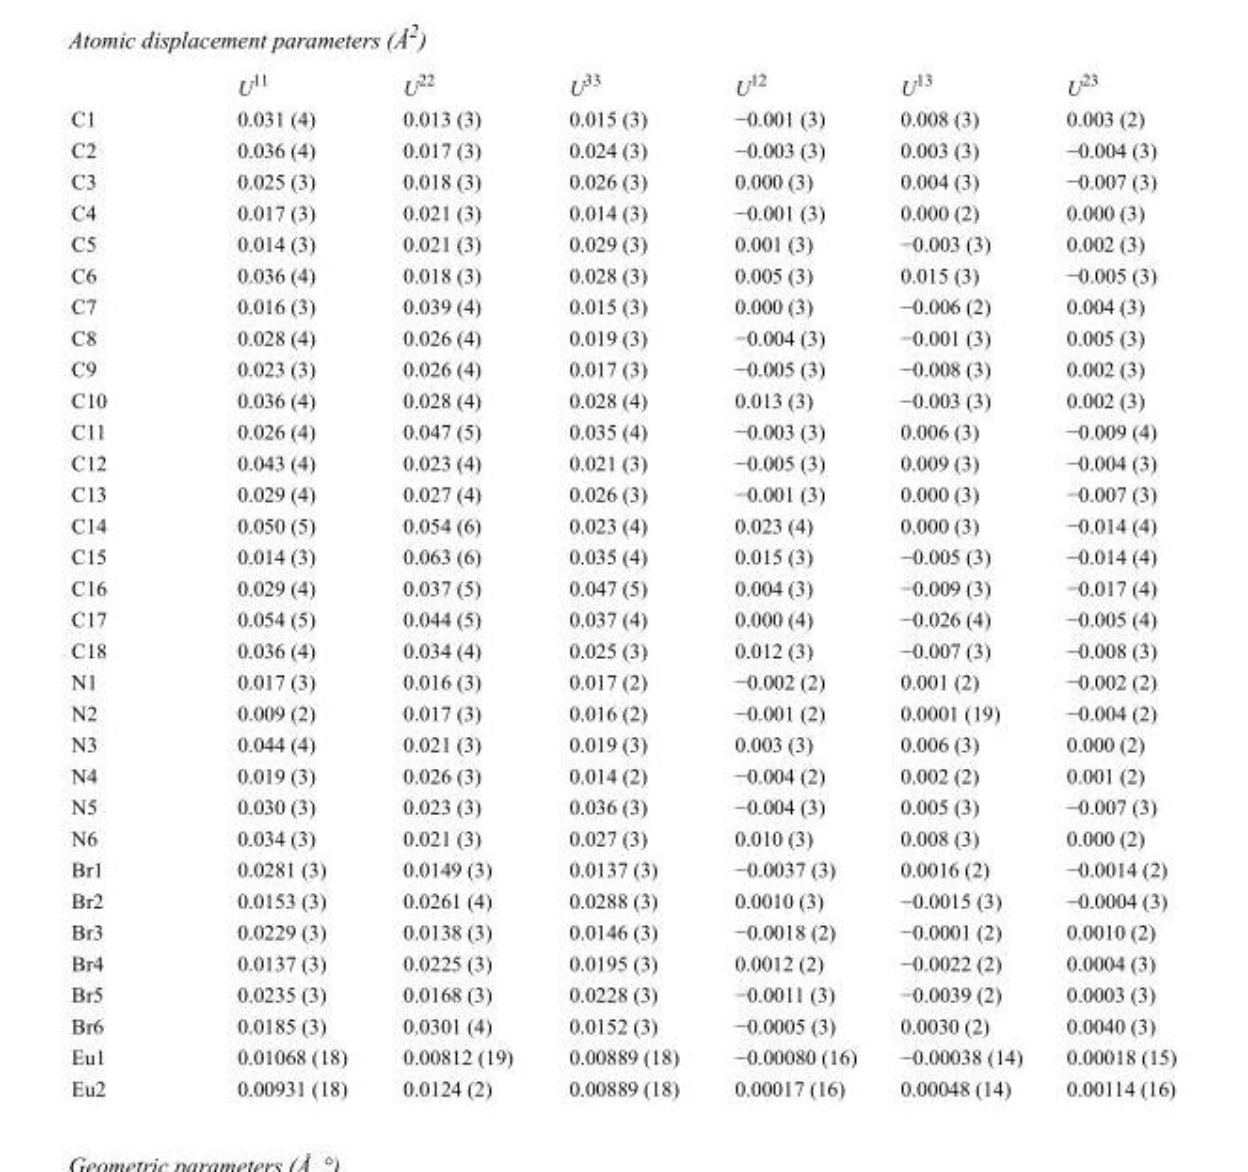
<table><thead><tr><td></td><td>U<sup>11</sup></td><td>U<sup>22</sup></td><td>U<sup>33</sup></td><td>U<sup>12</sup></td><td>U<sup>13</sup></td><td>U<sup>23</sup></td></tr></thead><tbody><tr><td>C1</td><td>0.031 (4)</td><td>0.013 (3)</td><td>0.015 (3)</td><td>−0.001 (3)</td><td>0.008 (3)</td><td>0.003 (2)</td></tr><tr><td>C2</td><td>0.036 (4)</td><td>0.017 (3)</td><td>0.024 (3)</td><td>−0.003 (3)</td><td>0.003 (3)</td><td>−0.004 (3)</td></tr><tr><td>C3</td><td>0.025 (3)</td><td>0.018 (3)</td><td>0.026 (3)</td><td>0.000 (3)</td><td>0.004 (3)</td><td>−0.007 (3)</td></tr><tr><td>C4</td><td>0.017 (3)</td><td>0.021 (3)</td><td>0.014 (3)</td><td>−0.001 (3)</td><td>0.000 (2)</td><td>0.000 (3)</td></tr><tr><td>C5</td><td>0.014 (3)</td><td>0.021 (3)</td><td>0.029 (3)</td><td>0.001 (3)</td><td>−0.003 (3)</td><td>0.002 (3)</td></tr><tr><td>C6</td><td>0.036 (4)</td><td>0.018 (3)</td><td>0.028 (3)</td><td>0.005 (3)</td><td>0.015 (3)</td><td>−0.005 (3)</td></tr><tr><td>C7</td><td>0.016 (3)</td><td>0.039 (4)</td><td>0.015 (3)</td><td>0.000 (3)</td><td>−0.006 (2)</td><td>0.004 (3)</td></tr><tr><td>C8</td><td>0.028 (4)</td><td>0.026 (4)</td><td>0.019 (3)</td><td>−0.004 (3)</td><td>−0.001 (3)</td><td>0.005 (3)</td></tr><tr><td>C9</td><td>0.023 (3)</td><td>0.026 (4)</td><td>0.017 (3)</td><td>−0.005 (3)</td><td>−0.008 (3)</td><td>0.002 (3)</td></tr><tr><td>C10</td><td>0.036 (4)</td><td>0.028 (4)</td><td>0.028 (4)</td><td>0.013 (3)</td><td>−0.003 (3)</td><td>0.002 (3)</td></tr><tr><td>C11</td><td>0.026 (4)</td><td>0.047 (5)</td><td>0.035 (4)</td><td>−0.003 (3)</td><td>0.006 (3)</td><td>−0.009 (4)</td></tr><tr><td>C12</td><td>0.043 (4)</td><td>0.023 (4)</td><td>0.021 (3)</td><td>−0.005 (3)</td><td>0.009 (3)</td><td>−0.004 (3)</td></tr><tr><td>C13</td><td>0.029 (4)</td><td>0.027 (4)</td><td>0.026 (3)</td><td>−0.001 (3)</td><td>0.000 (3)</td><td>−0.007 (3)</td></tr><tr><td>C14</td><td>0.050 (5)</td><td>0.054 (6)</td><td>0.023 (4)</td><td>0.023 (4)</td><td>0.000 (3)</td><td>−0.014 (4)</td></tr><tr><td>C15</td><td>0.014 (3)</td><td>0.063 (6)</td><td>0.035 (4)</td><td>0.015 (3)</td><td>−0.005 (3)</td><td>−0.014 (4)</td></tr><tr><td>C16</td><td>0.029 (4)</td><td>0.037 (5)</td><td>0.047 (5)</td><td>0.004 (3)</td><td>−0.009 (3)</td><td>−0.017 (4)</td></tr><tr><td>C17</td><td>0.054 (5)</td><td>0.044 (5)</td><td>0.037 (4)</td><td>0.000 (4)</td><td>−0.026 (4)</td><td>−0.005 (4)</td></tr><tr><td>C18</td><td>0.036 (4)</td><td>0.034 (4)</td><td>0.025 (3)</td><td>0.012 (3)</td><td>−0.007 (3)</td><td>−0.008 (3)</td></tr><tr><td>N1</td><td>0.017 (3)</td><td>0.016 (3)</td><td>0.017 (2)</td><td>−0.002 (2)</td><td>0.001 (2)</td><td>−0.002 (2)</td></tr><tr><td>N2</td><td>0.009 (2)</td><td>0.017 (3)</td><td>0.016 (2)</td><td>−0.001 (2)</td><td>0.0001 (19)</td><td>−0.004 (2)</td></tr><tr><td>N3</td><td>0.044 (4)</td><td>0.021 (3)</td><td>0.019 (3)</td><td>0.003 (3)</td><td>0.006 (3)</td><td>0.000 (2)</td></tr><tr><td>N4</td><td>0.019 (3)</td><td>0.026 (3)</td><td>0.014 (2)</td><td>−0.004 (2)</td><td>0.002 (2)</td><td>0.001 (2)</td></tr><tr><td>N5</td><td>0.030 (3)</td><td>0.023 (3)</td><td>0.036 (3)</td><td>−0.004 (3)</td><td>0.005 (3)</td><td>−0.007 (3)</td></tr><tr><td>N6</td><td>0.034 (3)</td><td>0.021 (3)</td><td>0.027 (3)</td><td>0.010 (3)</td><td>0.008 (3)</td><td>0.000 (2)</td></tr><tr><td>Br1</td><td>0.0281 (3)</td><td>0.0149 (3)</td><td>0.0137 (3)</td><td>−0.0037 (3)</td><td>0.0016 (2)</td><td>−0.0014 (2)</td></tr><tr><td>Br2</td><td>0.0153 (3)</td><td>0.0261 (4)</td><td>0.0288 (3)</td><td>0.0010 (3)</td><td>−0.0015 (3)</td><td>−0.0004 (3)</td></tr><tr><td>Br3</td><td>0.0229 (3)</td><td>0.0138 (3)</td><td>0.0146 (3)</td><td>−0.0018 (2)</td><td>−0.0001 (2)</td><td>0.0010 (2)</td></tr><tr><td>Br4</td><td>0.0137 (3)</td><td>0.0225 (3)</td><td>0.0195 (3)</td><td>0.0012 (2)</td><td>−0.0022 (2)</td><td>0.0004 (3)</td></tr><tr><td>Br5</td><td>0.0235 (3)</td><td>0.0168 (3)</td><td>0.0228 (3)</td><td>−0.0011 (3)</td><td>−0.0039 (2)</td><td>0.0003 (3)</td></tr><tr><td>Br6</td><td>0.0185 (3)</td><td>0.0301 (4)</td><td>0.0152 (3)</td><td>−0.0005 (3)</td><td>0.0030 (2)</td><td>0.0040 (3)</td></tr><tr><td>Eu1</td><td>0.01068 (18)</td><td>0.00812 (19)</td><td>0.00889 (18)</td><td>−0.00080 (16)</td><td>−0.00038 (14)</td><td>0.00018 (15)</td></tr><tr><td>Eu2</td><td>0.00931 (18)</td><td>0.0124 (2)</td><td>0.00889 (18)</td><td>0.00017 (16)</td><td>0.00048 (14)</td><td>0.00114 (16)</td></tr></tbody></table>